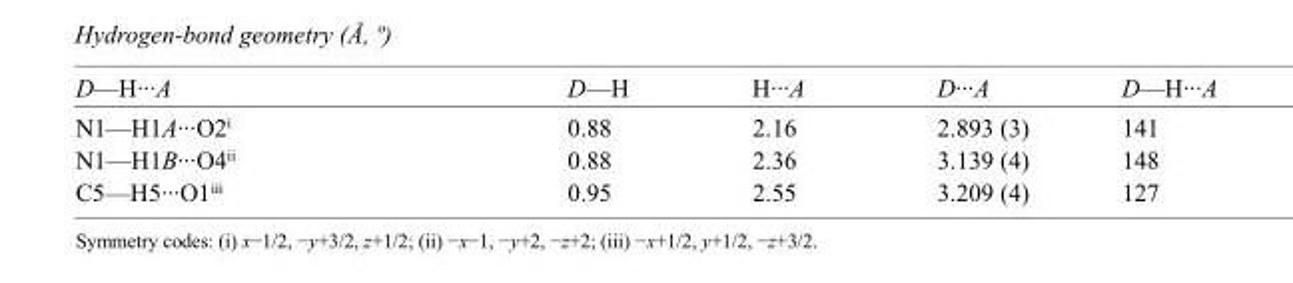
<table><tbody><tr><td>D—H···A</td><td>D—H</td><td>H···A</td><td>D···A</td><td>D—H···A</td></tr><tr><td>N1—H1A···O2<sup>i</sup></td><td>0.88</td><td>2.16</td><td>2.893 (3)</td><td>141</td></tr><tr><td>N1—H1B···O4<sup>ii</sup></td><td>0.88</td><td>2.36</td><td>3.139 (4)</td><td>148</td></tr><tr><td>C5—H5···O1<sup>iii</sup></td><td>0.95</td><td>2.55</td><td>3.209 (4)</td><td>127</td></tr></tbody></table>